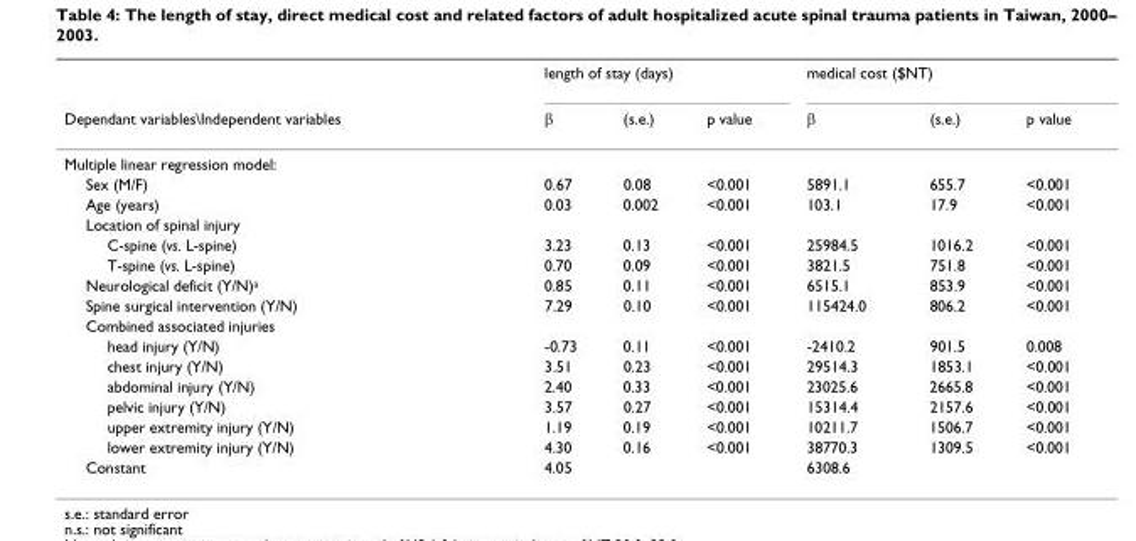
<table><thead><tr><td rowspan="2">Dependant variables\Independent variables</td><td colspan="3">length of stay (days)</td><td colspan="3">medical cost ($NT)</td></tr><tr><td>β</td><td>(s.e.)</td><td>p value</td><td>β</td><td>(s.e.)</td><td>p value</td></tr></thead><tbody><tr><td colspan="7">Multiple linear regression model:</td></tr><tr><td>Sex (M/F)</td><td>0.67</td><td>0.08</td><td>&lt;0.001</td><td>5891.1</td><td>655.7</td><td>&lt;0.001</td></tr><tr><td>Age (years)</td><td>0.03</td><td>0.002</td><td>&lt;0.001</td><td>103.1</td><td>17.9</td><td>&lt;0.001</td></tr><tr><td colspan="7">Location of spinal injury</td></tr><tr><td>C-spine (vs. L-spine)</td><td>3.23</td><td>0.13</td><td>&lt;0.001</td><td>25984.5</td><td>1016.2</td><td>&lt;0.001</td></tr><tr><td>T-spine (vs. L-spine)</td><td>0.70</td><td>0.09</td><td>&lt;0.001</td><td>3821.5</td><td>751.8</td><td>&lt;0.001</td></tr><tr><td>Neurological deficit (Y/N)<sup>a</sup></td><td>0.85</td><td>0.11</td><td>&lt;0.001</td><td>6515.1</td><td>853.9</td><td>&lt;0.001</td></tr><tr><td>Spine surgical intervention (Y/N)</td><td>7.29</td><td>0.10</td><td>&lt;0.001</td><td>115424.0</td><td>806.2</td><td>&lt;0.001</td></tr><tr><td colspan="7">Combined associated injuries</td></tr><tr><td>head injury (Y/N)</td><td>-0.73</td><td>0.11</td><td>&lt;0.001</td><td>-2410.2</td><td>901.5</td><td>0.008</td></tr><tr><td>chest injury (Y/N)</td><td>3.51</td><td>0.23</td><td>&lt;0.001</td><td>29514.3</td><td>1853.1</td><td>&lt;0.001</td></tr><tr><td>abdominal injury (Y/N)</td><td>2.40</td><td>0.33</td><td>&lt;0.001</td><td>23025.6</td><td>2665.8</td><td>&lt;0.001</td></tr><tr><td>pelvic injury (Y/N)</td><td>3.57</td><td>0.27</td><td>&lt;0.001</td><td>15314.4</td><td>2157.6</td><td>&lt;0.001</td></tr><tr><td>upper extremity injury (Y/N)</td><td>1.19</td><td>0.19</td><td>&lt;0.001</td><td>10211.7</td><td>1506.7</td><td>&lt;0.001</td></tr><tr><td>lower extremity injury (Y/N)</td><td>4.30</td><td>0.16</td><td>&lt;0.001</td><td>38770.3</td><td>1309.5</td><td>&lt;0.001</td></tr><tr><td>Constant</td><td>4.05</td><td></td><td></td><td>6308.6</td><td></td><td></td></tr></tbody></table>